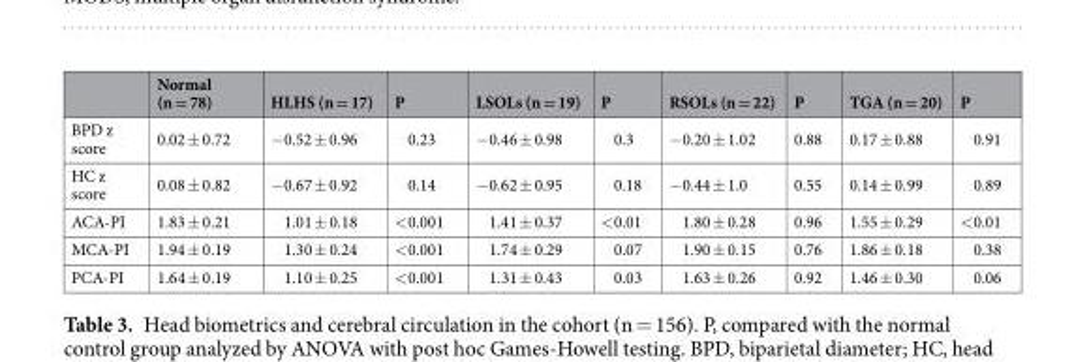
<table><thead><tr><td></td><td>Normal (n = 78)</td><td>HLHS (n = 17)</td><td>P</td><td>LSOLs (n = 19)</td><td>P</td><td>RSOLs (n = 22)</td><td>P</td><td>TGA (n = 20)</td><td>P</td></tr></thead><tbody><tr><td>BPD z score</td><td>0.02 ± 0.72</td><td>−0.52 ± 0.96</td><td>0.23</td><td>−0.46 ± 0.98</td><td>0.3</td><td>−0.20 ± 1.02</td><td>0.88</td><td>0.17 ± 0.88</td><td>0.91</td></tr><tr><td>HC z score</td><td>0.08 ± 0.82</td><td>−0.67 ± 0.92</td><td>0.14</td><td>−0.62 ± 0.95</td><td>0.18</td><td>−0.44 ± 1.0</td><td>0.55</td><td>0.14 ± 0.99</td><td>0.89</td></tr><tr><td>ACA-PI</td><td>1.83 ± 0.21</td><td>1.01 ± 0.18</td><td>&lt;0.001</td><td>1.41 ± 0.37</td><td>&lt;0.01</td><td>1.80 ± 0.28</td><td>0.96</td><td>1.55 ± 0.29</td><td>&lt;0.01</td></tr><tr><td>MCA-PI</td><td>1.94 ± 0.19</td><td>1.30 ± 0.24</td><td>&lt;0.001</td><td>1.74 ± 0.29</td><td>0.07</td><td>1.90 ± 0.15</td><td>0.76</td><td>1.86 ± 0.18</td><td>0.38</td></tr><tr><td>PCA-PI</td><td>1.64 ± 0.19</td><td>1.10 ± 0.25</td><td>&lt;0.001</td><td>1.31 ± 0.43</td><td>0.03</td><td>1.63 ± 0.26</td><td>0.92</td><td>1.46 ± 0.30</td><td>0.06</td></tr></tbody></table>